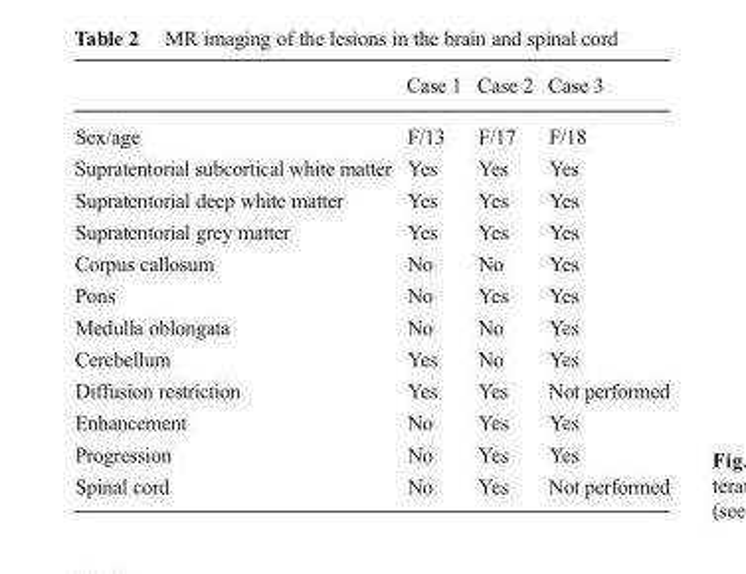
<table><thead><tr><td></td><td>Case 1</td><td>Case 2</td><td>Case 3</td></tr></thead><tbody><tr><td>Sex/age</td><td>F/13</td><td>F/17</td><td>F/18</td></tr><tr><td>Supratentorial subcortical white matter</td><td>Yes</td><td>Yes</td><td>Yes</td></tr><tr><td>Supratentorial deep white matter</td><td>Yes</td><td>Yes</td><td>Yes</td></tr><tr><td>Supratentorial grey matter</td><td>Yes</td><td>Yes</td><td>Yes</td></tr><tr><td>Corpus callosum</td><td>No</td><td>No</td><td>Yes</td></tr><tr><td>Pons</td><td>No</td><td>Yes</td><td>Yes</td></tr><tr><td>Medulla oblongata</td><td>No</td><td>No</td><td>Yes</td></tr><tr><td>Cerebellum</td><td>Yes</td><td>No</td><td>Yes</td></tr><tr><td>Diffusion restriction</td><td>Yes</td><td>Yes</td><td>Not performed</td></tr><tr><td>Enhancement</td><td>No</td><td>Yes</td><td>Yes</td></tr><tr><td>Progression</td><td>No</td><td>Yes</td><td>Yes</td></tr><tr><td>Spinal cord</td><td>No</td><td>Yes</td><td>Not performed</td></tr></tbody></table>